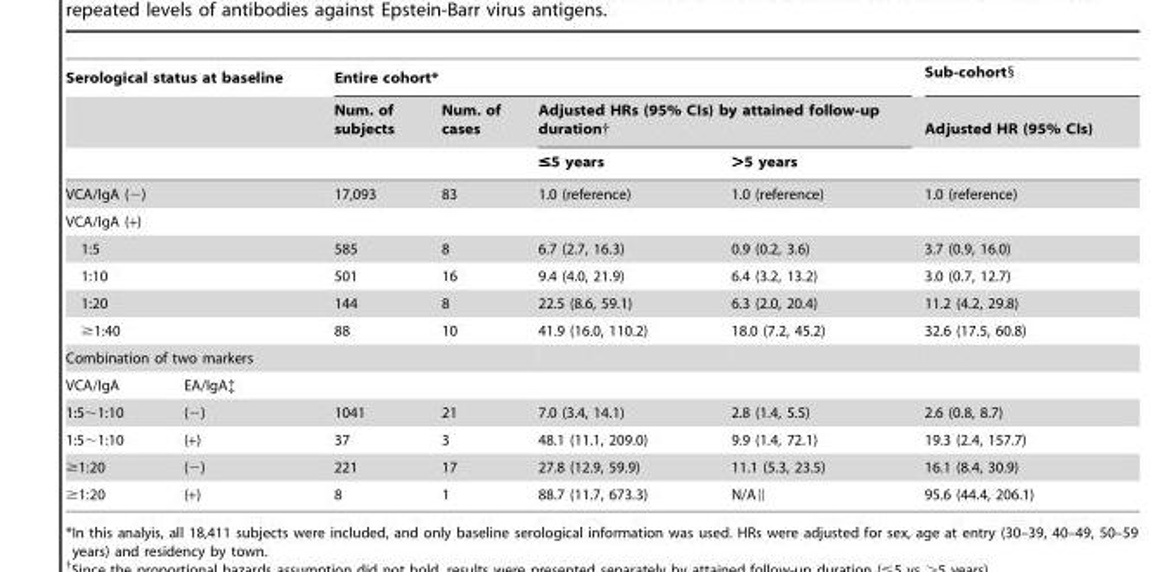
<table><thead><tr><td colspan="2">Serological status at baseline</td><td colspan="4">Entire cohort*</td><td rowspan="3">Sub-cohort§ Adjusted HR (95% CIs)</td></tr><tr><td rowspan="2"></td><td rowspan="2"></td><td rowspan="2">Num. of subjects</td><td rowspan="2">Num. of cases</td><td colspan="2">Adjusted HRs (95% CIs) by attained follow-up duration†</td></tr><tr><td>≤5 years</td><td>&gt;5 years</td></tr></thead><tbody><tr><td colspan="2">VCA/IgA (−)</td><td>17,093</td><td>83</td><td>1.0 (reference)</td><td>1.0 (reference)</td><td>1.0 (reference)</td></tr><tr><td colspan="7">VCA/IgA (+)</td></tr><tr><td colspan="2">1:5</td><td>585</td><td>8</td><td>6.7 (2.7, 16.3)</td><td>0.9 (0.2, 3.6)</td><td>3.7 (0.9, 16.0)</td></tr><tr><td colspan="2">1:10</td><td>501</td><td>16</td><td>9.4 (4.0, 21.9)</td><td>6.4 (3.2, 13.2)</td><td>3.0 (0.7, 12.7)</td></tr><tr><td colspan="2">1:20</td><td>144</td><td>8</td><td>22.5 (8.6, 59.1)</td><td>6.3 (2.0, 20.4)</td><td>11.2 (4.2, 29.8)</td></tr><tr><td colspan="2">≥1:40</td><td>88</td><td>10</td><td>41.9 (16.0, 110.2)</td><td>18.0 (7.2, 45.2)</td><td>32.6 (17.5, 60.8)</td></tr><tr><td colspan="7">Combination of two markers</td></tr><tr><td>VCA/IgA</td><td>EA/IgA‡</td><td></td><td></td><td></td><td></td><td></td></tr><tr><td>1:5∼1:10</td><td>(−)</td><td>1041</td><td>21</td><td>7.0 (3.4, 14.1)</td><td>2.8 (1.4, 5.5)</td><td>2.6 (0.8, 8.7)</td></tr><tr><td>1:5∼1:10</td><td>(+)</td><td>37</td><td>3</td><td>48.1 (11.1, 209.0)</td><td>9.9 (1.4, 72.1)</td><td>19.3 (2.4, 157.7)</td></tr><tr><td>≥1:20</td><td>(−)</td><td>221</td><td>17</td><td>27.8 (12.9, 59.9)</td><td>11.1 (5.3, 23.5)</td><td>16.1 (8.4, 30.9)</td></tr><tr><td>≥1:20</td><td>(+)</td><td>8</td><td>1</td><td>88.7 (11.7, 673.3)</td><td>N/A∥</td><td>95.6 (44.4, 206.1)</td></tr></tbody></table>